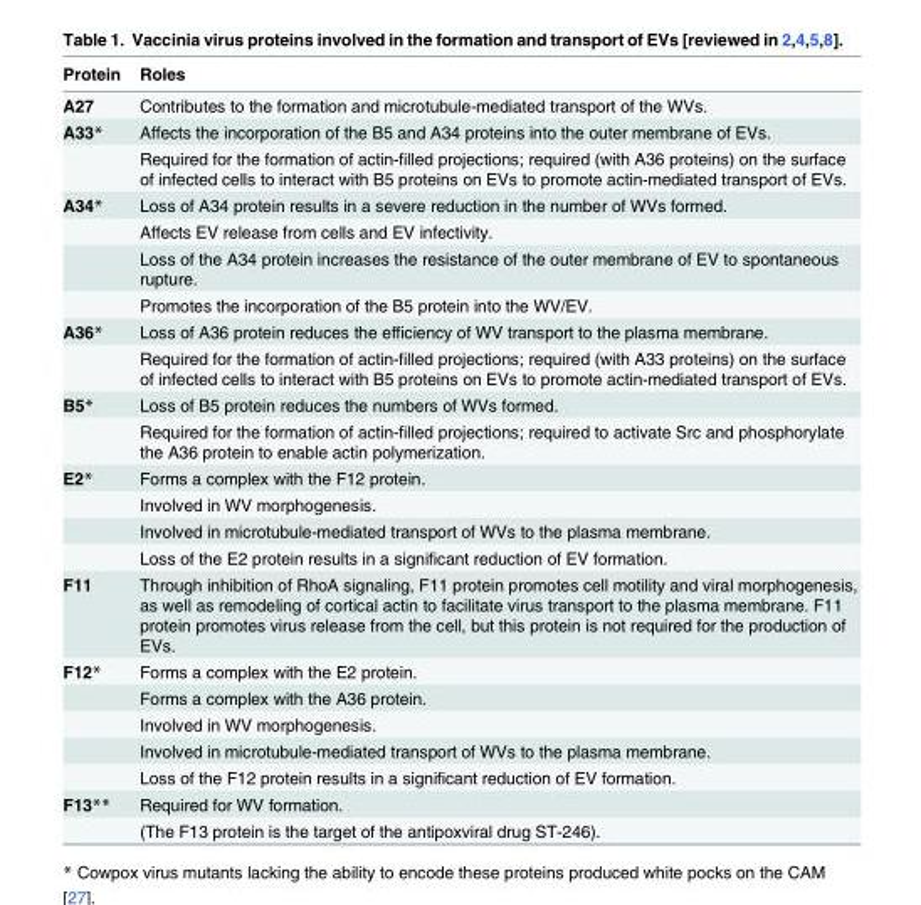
<table><thead><tr><td>Protein</td><td>Roles</td></tr></thead><tbody><tr><td>A27</td><td>Contributes to the formation and microtubule-mediated transport of the WVs.</td></tr><tr><td rowspan="2">A33*</td><td>Affects the incorporation of the B5 and A34 proteins into the outer membrane of EVs.</td></tr><tr><td>Required for the formation of actin-filled projections; required (with A36 proteins) on the surface of infected cells to interact with B5 proteins on EVs to promote actin-mediated transport of EVs.</td></tr><tr><td rowspan="4">A34*</td><td>Loss of A34 protein results in a severe reduction in the number of WVs formed.</td></tr><tr><td>Affects EV release from cells and EV infectivity.</td></tr><tr><td>Loss of the A34 protein increases the resistance of the outer membrane of EV to spontaneous rupture.</td></tr><tr><td>Promotes the incorporation of the B5 protein into the WV/EV.</td></tr><tr><td rowspan="2">A36*</td><td>Loss of A36 protein reduces the efficiency of WV transport to the plasma membrane.</td></tr><tr><td>Required for the formation of actin-filled projections; required (with A33 proteins) on the surface of infected cells to interact with B5 proteins on EVs to promote actin-mediated transport of EVs.</td></tr><tr><td rowspan="2">B5*</td><td>Loss of B5 protein reduces the numbers of WVs formed.</td></tr><tr><td>Required for the formation of actin-filled projections; required to activate Src and phosphorylate the A36 protein to enable actin polymerization.</td></tr><tr><td rowspan="4">E2*</td><td>Forms a complex with the F12 protein.</td></tr><tr><td>Involved in WV morphogenesis.</td></tr><tr><td>Involved in microtubule-mediated transport of WVs to the plasma membrane.</td></tr><tr><td>Loss of the E2 protein results in a significant reduction of EV formation.</td></tr><tr><td>F11</td><td>Through inhibition of RhoA signaling, F11 protein promotes cell motility and viral morphogenesis, as well as remodeling of cortical actin to facilitate virus transport to the plasma membrane. F11 protein promotes virus release from the cell, but this protein is not required for the production of EVs.</td></tr><tr><td rowspan="5">F12*</td><td>Forms a complex with the E2 protein.</td></tr><tr><td>Forms a complex with the A36 protein.</td></tr><tr><td>Involved in WV morphogenesis.</td></tr><tr><td>Involved in microtubule-mediated transport of WVs to the plasma membrane.</td></tr><tr><td>Loss of the F12 protein results in a significant reduction of EV formation.</td></tr><tr><td rowspan="2">F13**</td><td>Required for WV formation.</td></tr><tr><td>(The F13 protein is the target of the antipoxviral drug ST-246).</td></tr></tbody></table>